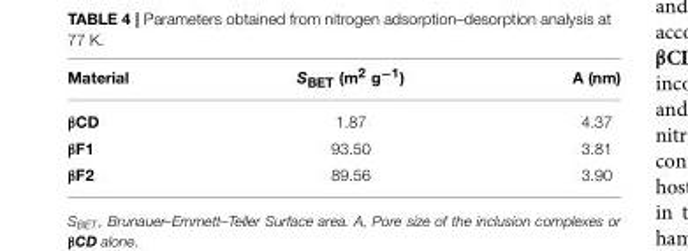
<table><thead><tr><td>Material</td><td>S<sub>BET</sub> (m<sup>2</sup> g<sup>−1</sup>)</td><td>A (nm)</td></tr></thead><tbody><tr><td>βCD</td><td>1.87</td><td>4.37</td></tr><tr><td>βF1</td><td>93.50</td><td>3.81</td></tr><tr><td>βF2</td><td>89.56</td><td>3.90</td></tr></tbody></table>